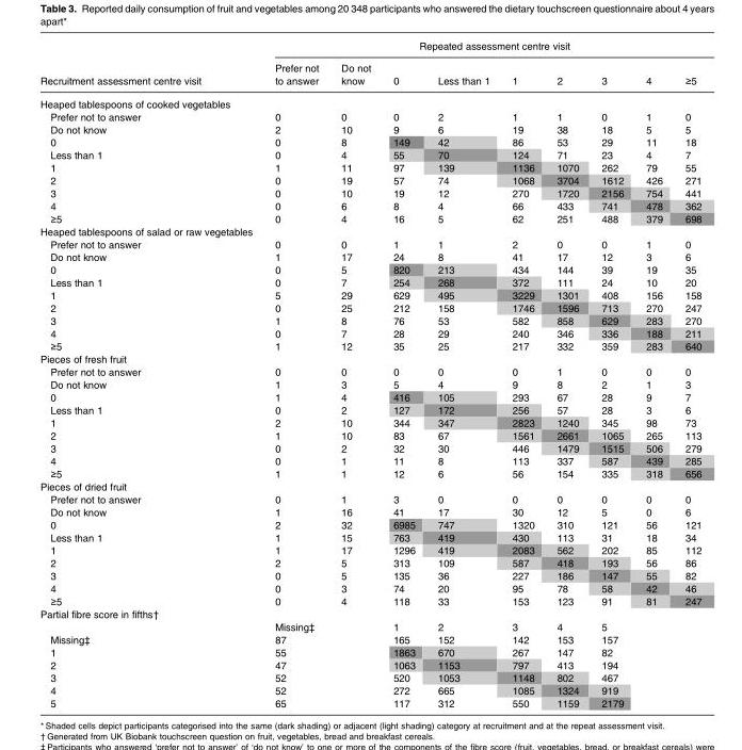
<table><thead><tr><td rowspan="2">Recruitment assessment centre visit</td><td colspan="9">Repeated assessment centre visit</td></tr><tr><td>Prefer not to answer</td><td>Do not know</td><td>0</td><td>Less than 1</td><td>1</td><td>2</td><td>3</td><td>4</td><td>≥5</td></tr></thead><tbody><tr><td colspan="10">Heaped tablespoons of cooked vegetables</td></tr><tr><td>Prefer not to answer</td><td>0</td><td>0</td><td>0</td><td>2</td><td>1</td><td>1</td><td>0</td><td>1</td><td>0</td></tr><tr><td>Do not know</td><td>2</td><td>10</td><td>9</td><td>6</td><td>19</td><td>38</td><td>18</td><td>5</td><td>5</td></tr><tr><td>0</td><td>0</td><td>8</td><td>149</td><td>42</td><td>86</td><td>53</td><td>29</td><td>11</td><td>18</td></tr><tr><td>Less than 1</td><td>0</td><td>4</td><td>55</td><td>70</td><td>124</td><td>71</td><td>23</td><td>4</td><td>7</td></tr><tr><td>1</td><td>1</td><td>11</td><td>97</td><td>139</td><td>1136</td><td>1070</td><td>262</td><td>79</td><td>55</td></tr><tr><td>2</td><td>0</td><td>19</td><td>57</td><td>74</td><td>1068</td><td>3704</td><td>1612</td><td>426</td><td>271</td></tr><tr><td>3</td><td>0</td><td>10</td><td>19</td><td>12</td><td>270</td><td>1720</td><td>2156</td><td>754</td><td>441</td></tr><tr><td>4</td><td>0</td><td>6</td><td>8</td><td>4</td><td>66</td><td>433</td><td>741</td><td>478</td><td>362</td></tr><tr><td>≥5</td><td>0</td><td>4</td><td>16</td><td>5</td><td>62</td><td>251</td><td>488</td><td>379</td><td>698</td></tr><tr><td colspan="10">Heaped tablespoons of salad or raw vegetables</td></tr><tr><td>Prefer not to answer</td><td>0</td><td>0</td><td>1</td><td>1</td><td>2</td><td>0</td><td>0</td><td>1</td><td>0</td></tr><tr><td>Do not know</td><td>1</td><td>17</td><td>24</td><td>8</td><td>41</td><td>17</td><td>12</td><td>3</td><td>6</td></tr><tr><td>0</td><td>0</td><td>5</td><td>820</td><td>213</td><td>434</td><td>144</td><td>39</td><td>19</td><td>35</td></tr><tr><td>Less than 1</td><td>0</td><td>7</td><td>254</td><td>268</td><td>372</td><td>111</td><td>24</td><td>10</td><td>20</td></tr><tr><td>1</td><td>5</td><td>29</td><td>629</td><td>495</td><td>3229</td><td>1301</td><td>408</td><td>156</td><td>158</td></tr><tr><td>2</td><td>0</td><td>25</td><td>212</td><td>158</td><td>1746</td><td>1596</td><td>713</td><td>270</td><td>247</td></tr><tr><td>3</td><td>1</td><td>8</td><td>76</td><td>53</td><td>582</td><td>858</td><td>629</td><td>283</td><td>270</td></tr><tr><td>4</td><td>0</td><td>7</td><td>28</td><td>29</td><td>240</td><td>346</td><td>336</td><td>188</td><td>211</td></tr><tr><td>≥5</td><td>1</td><td>12</td><td>35</td><td>25</td><td>217</td><td>332</td><td>359</td><td>283</td><td>640</td></tr><tr><td colspan="10">Pieces of fresh fruit</td></tr><tr><td>Prefer not to answer</td><td>0</td><td>0</td><td>0</td><td>0</td><td>0</td><td>1</td><td>0</td><td>0</td><td>0</td></tr><tr><td>Do not know</td><td>1</td><td>3</td><td>5</td><td>4</td><td>9</td><td>8</td><td>2</td><td>1</td><td>3</td></tr><tr><td>0</td><td>1</td><td>4</td><td>416</td><td>105</td><td>293</td><td>67</td><td>28</td><td>9</td><td>7</td></tr><tr><td>Less than 1</td><td>0</td><td>2</td><td>127</td><td>172</td><td>256</td><td>57</td><td>28</td><td>3</td><td>6</td></tr><tr><td>1</td><td>2</td><td>10</td><td>344</td><td>347</td><td>2823</td><td>1240</td><td>345</td><td>98</td><td>73</td></tr><tr><td>2</td><td>1</td><td>10</td><td>83</td><td>67</td><td>1561</td><td>2661</td><td>1065</td><td>265</td><td>113</td></tr><tr><td>3</td><td>0</td><td>2</td><td>32</td><td>30</td><td>446</td><td>1479</td><td>1515</td><td>506</td><td>279</td></tr><tr><td>4</td><td>0</td><td>1</td><td>11</td><td>8</td><td>113</td><td>337</td><td>587</td><td>439</td><td>285</td></tr><tr><td>≥5</td><td>1</td><td>1</td><td>12</td><td>6</td><td>56</td><td>154</td><td>335</td><td>318</td><td>656</td></tr><tr><td colspan="10">Pieces of dried fruit</td></tr><tr><td>Prefer not to answer</td><td>0</td><td>1</td><td>3</td><td>0</td><td>0</td><td>0</td><td>0</td><td>0</td><td>0</td></tr><tr><td>Do not know</td><td>1</td><td>16</td><td>41</td><td>17</td><td>30</td><td>12</td><td>5</td><td>0</td><td>6</td></tr><tr><td>0</td><td>2</td><td>32</td><td>6985</td><td>747</td><td>1320</td><td>310</td><td>121</td><td>56</td><td>121</td></tr><tr><td>Less than 1</td><td>1</td><td>15</td><td>763</td><td>419</td><td>430</td><td>113</td><td>31</td><td>18</td><td>34</td></tr><tr><td>1</td><td>1</td><td>17</td><td>1296</td><td>419</td><td>2083</td><td>562</td><td>202</td><td>85</td><td>112</td></tr><tr><td>2</td><td>2</td><td>5</td><td>313</td><td>109</td><td>587</td><td>418</td><td>193</td><td>56</td><td>86</td></tr><tr><td>3</td><td>0</td><td>5</td><td>135</td><td>36</td><td>227</td><td>186</td><td>147</td><td>55</td><td>82</td></tr><tr><td>4</td><td>0</td><td>3</td><td>74</td><td>20</td><td>95</td><td>78</td><td>58</td><td>42</td><td>46</td></tr><tr><td>≥5</td><td>0</td><td>4</td><td>118</td><td>33</td><td>153</td><td>123</td><td>91</td><td>81</td><td>247</td></tr><tr><td colspan="10">Partial fibre score in fifths†</td></tr><tr><td></td><td>Missing‡</td><td></td><td>1</td><td>2</td><td>3</td><td>4</td><td>5</td><td></td><td></td></tr><tr><td>Missing‡</td><td>87</td><td></td><td>165</td><td>152</td><td>142</td><td>153</td><td>157</td><td></td><td></td></tr><tr><td>1</td><td>55</td><td></td><td>1863</td><td>670</td><td>267</td><td>147</td><td>82</td><td></td><td></td></tr><tr><td>2</td><td>47</td><td></td><td>1063</td><td>1153</td><td>797</td><td>413</td><td>194</td><td></td><td></td></tr><tr><td>3</td><td>52</td><td></td><td>520</td><td>1053</td><td>1148</td><td>802</td><td>467</td><td></td><td></td></tr><tr><td>4</td><td>52</td><td></td><td>272</td><td>665</td><td>1085</td><td>1324</td><td>919</td><td></td><td></td></tr><tr><td>5</td><td>65</td><td></td><td>117</td><td>312</td><td>550</td><td>1159</td><td>2179</td><td></td><td></td></tr></tbody></table>